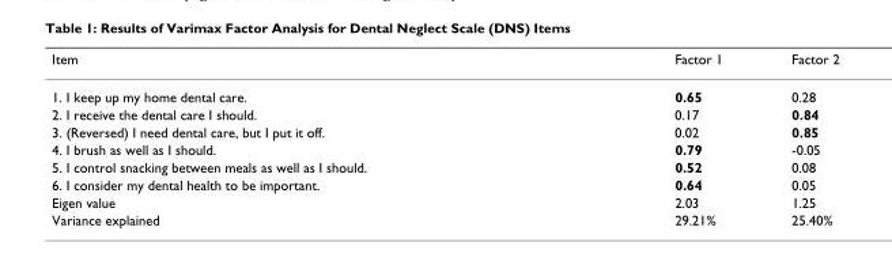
<table><thead><tr><td>Item</td><td>Factor 1</td><td>Factor 2</td></tr></thead><tbody><tr><td>1. I keep up my home dental care.</td><td>0.65</td><td>0.28</td></tr><tr><td>2. I receive the dental care I should.</td><td>0.17</td><td>0.84</td></tr><tr><td>3. (Reversed) I need dental care, but I put it off.</td><td>0.02</td><td>0.85</td></tr><tr><td>4. I brush as well as I should.</td><td>0.79</td><td>-0.05</td></tr><tr><td>5. I control snacking between meals as well as I should.</td><td>0.52</td><td>0.08</td></tr><tr><td>6. I consider my dental health to be important.</td><td>0.64</td><td>0.05</td></tr><tr><td>Eigen value</td><td>2.03</td><td>1.25</td></tr><tr><td>Variance explained</td><td>29.21%</td><td>25.40%</td></tr></tbody></table>